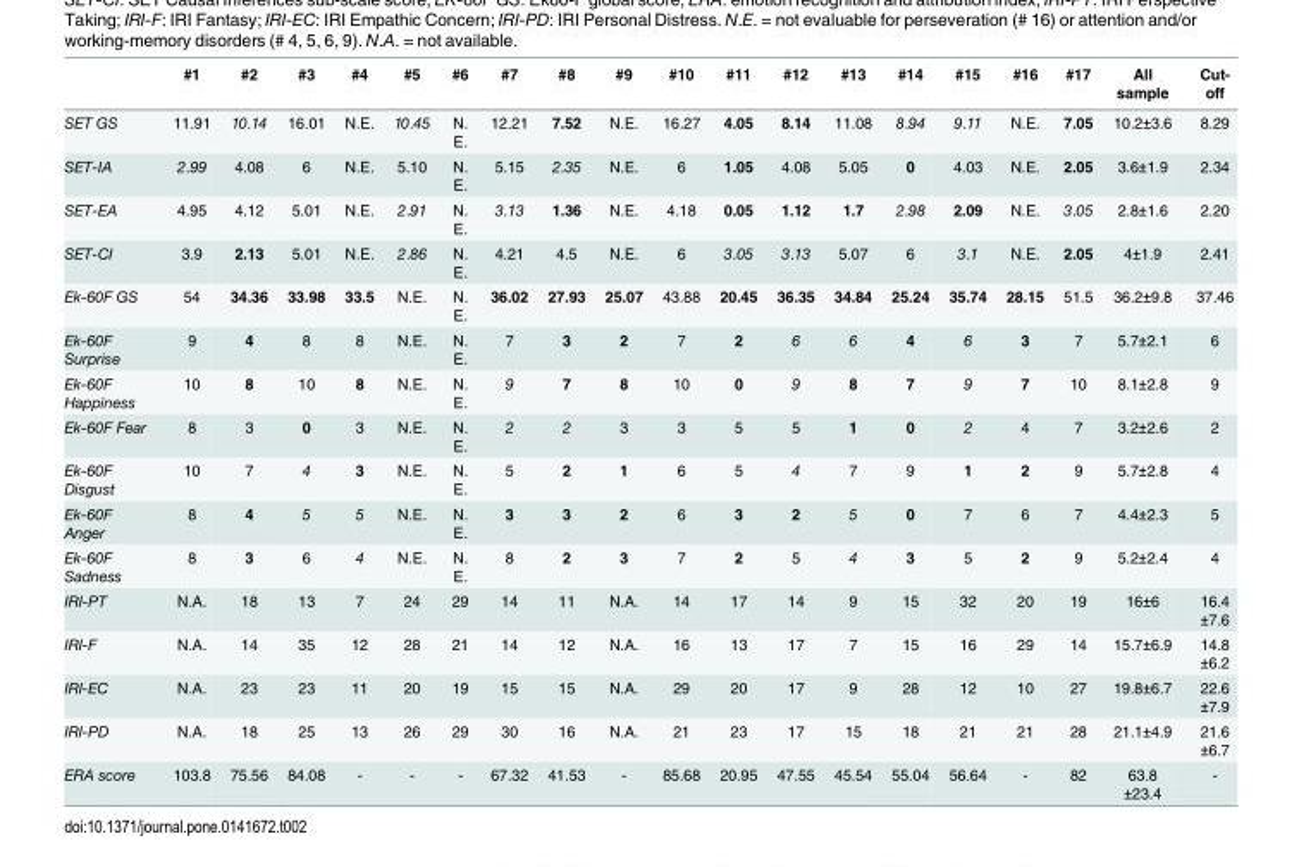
<table><thead><tr><td></td><td>#1</td><td>#2</td><td>#3</td><td>#4</td><td>#5</td><td>#6</td><td>#7</td><td>#8</td><td>#9</td><td>#10</td><td>#11</td><td>#12</td><td>#13</td><td>#14</td><td>#15</td><td>#16</td><td>#17</td><td>All sample</td><td>Cut- off</td></tr></thead><tbody><tr><td>SET GS</td><td>11.91</td><td>10.14</td><td>16.01</td><td>N.E.</td><td>10.45</td><td>N. E.</td><td>12.21</td><td>7.52</td><td>N.E.</td><td>16.27</td><td>4.05</td><td>8.14</td><td>11.08</td><td>8.94</td><td>9.11</td><td>N.E.</td><td>7.05</td><td>10.2±3.6</td><td>8.29</td></tr><tr><td>SET-IA</td><td>2.99</td><td>4.08</td><td>6</td><td>N.E.</td><td>5.10</td><td>N. E.</td><td>5.15</td><td>2.35</td><td>N.E.</td><td>6</td><td>1.05</td><td>4.08</td><td>5.05</td><td>0</td><td>4.03</td><td>N.E.</td><td>2.05</td><td>3.6±1.9</td><td>2.34</td></tr><tr><td>SET-EA</td><td>4.95</td><td>4.12</td><td>5.01</td><td>N.E.</td><td>2.91</td><td>N. E.</td><td>3.13</td><td>1.36</td><td>N.E.</td><td>4.18</td><td>0.05</td><td>1.12</td><td>1.7</td><td>2.98</td><td>2.09</td><td>N.E.</td><td>3.05</td><td>2.8±1.6</td><td>2.20</td></tr><tr><td>SET-CI</td><td>3.9</td><td>2.13</td><td>5.01</td><td>N.E.</td><td>2.86</td><td>N. E.</td><td>4.21</td><td>4.5</td><td>N.E.</td><td>6</td><td>3.05</td><td>3.13</td><td>5.07</td><td>6</td><td>3.1</td><td>N.E.</td><td>2.05</td><td>4±1.9</td><td>2.41</td></tr><tr><td>Ek-60F GS</td><td>54</td><td>34.36</td><td>33.98</td><td>33.5</td><td>N.E.</td><td>N. E.</td><td>36.02</td><td>27.93</td><td>25.07</td><td>43.88</td><td>20.45</td><td>36.35</td><td>34.84</td><td>25.24</td><td>35.74</td><td>28.15</td><td>51.5</td><td>36.2±9.8</td><td>37.46</td></tr><tr><td>Ek-60F Surprise</td><td>9</td><td>4</td><td>8</td><td>8</td><td>N.E.</td><td>N. E.</td><td>7</td><td>3</td><td>2</td><td>7</td><td>2</td><td>6</td><td>6</td><td>4</td><td>6</td><td>3</td><td>7</td><td>5.7±2.1</td><td>6</td></tr><tr><td>Ek-60F Happiness</td><td>10</td><td>8</td><td>10</td><td>8</td><td>N.E.</td><td>N. E.</td><td>9</td><td>7</td><td>8</td><td>10</td><td>0</td><td>9</td><td>8</td><td>7</td><td>9</td><td>7</td><td>10</td><td>8.1±2.8</td><td>9</td></tr><tr><td>Ek-60F Fear</td><td>8</td><td>3</td><td>0</td><td>3</td><td>N.E.</td><td>N. E.</td><td>2</td><td>2</td><td>3</td><td>3</td><td>5</td><td>5</td><td>1</td><td>0</td><td>2</td><td>4</td><td>7</td><td>3.2±2.6</td><td>2</td></tr><tr><td>Ek-60F Disgust</td><td>10</td><td>7</td><td>4</td><td>3</td><td>N.E.</td><td>N. E.</td><td>5</td><td>2</td><td>1</td><td>6</td><td>5</td><td>4</td><td>7</td><td>9</td><td>1</td><td>2</td><td>9</td><td>5.7±2.8</td><td>4</td></tr><tr><td>Ek-60F Anger</td><td>8</td><td>4</td><td>5</td><td>5</td><td>N.E.</td><td>N. E.</td><td>3</td><td>3</td><td>2</td><td>6</td><td>3</td><td>2</td><td>5</td><td>0</td><td>7</td><td>6</td><td>7</td><td>4.4±2.3</td><td>5</td></tr><tr><td>Ek-60F Sadness</td><td>8</td><td>3</td><td>6</td><td>4</td><td>N.E.</td><td>N. E.</td><td>8</td><td>2</td><td>3</td><td>7</td><td>2</td><td>5</td><td>4</td><td>3</td><td>5</td><td>2</td><td>9</td><td>5.2±2.4</td><td>4</td></tr><tr><td>IRI-PT</td><td>N.A.</td><td>18</td><td>13</td><td>7</td><td>24</td><td>29</td><td>14</td><td>11</td><td>N.A.</td><td>14</td><td>17</td><td>14</td><td>9</td><td>15</td><td>32</td><td>20</td><td>19</td><td>16±6</td><td>16.4 ±7.6</td></tr><tr><td>IRI-F</td><td>N.A.</td><td>14</td><td>35</td><td>12</td><td>28</td><td>21</td><td>14</td><td>12</td><td>N.A.</td><td>16</td><td>13</td><td>17</td><td>7</td><td>15</td><td>16</td><td>29</td><td>14</td><td>15.7±6.9</td><td>14.8 ±6.2</td></tr><tr><td>IRI-EC</td><td>N.A.</td><td>23</td><td>23</td><td>11</td><td>20</td><td>19</td><td>15</td><td>15</td><td>N.A.</td><td>29</td><td>20</td><td>17</td><td>9</td><td>28</td><td>12</td><td>10</td><td>27</td><td>19.8±6.7</td><td>22.6 ±7.9</td></tr><tr><td>IRI-PD</td><td>N.A.</td><td>18</td><td>25</td><td>13</td><td>26</td><td>29</td><td>30</td><td>16</td><td>N.A.</td><td>21</td><td>23</td><td>17</td><td>15</td><td>18</td><td>21</td><td>21</td><td>28</td><td>21.1±4.9</td><td>21.6 ±6.7</td></tr><tr><td>ERA score</td><td>103.8</td><td>75.56</td><td>84.08</td><td>-</td><td>-</td><td>-</td><td>67.32</td><td>41.53</td><td>-</td><td>85.68</td><td>20.95</td><td>47.55</td><td>45.54</td><td>55.04</td><td>56.64</td><td>-</td><td>82</td><td>63.8 ±23.4</td><td>-</td></tr></tbody></table>